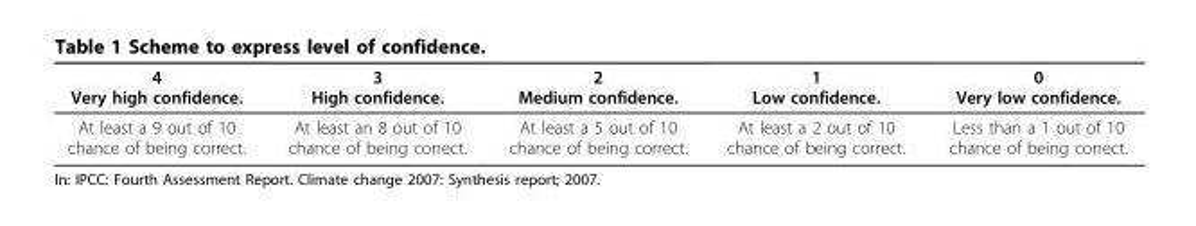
<table><thead><tr><td>4 Very high confidence.</td><td>3 High confidence.</td><td>2 Medium confidence.</td><td>1 Low confidence.</td><td>0 Very low confidence.</td></tr></thead><tbody><tr><td>At least a 9 out of 10 chance of being correct.</td><td>At least an 8 out of 10 chance of being correct.</td><td>At least a 5 out of 10 chance of being correct.</td><td>At least a 2 out of 10 chance of being correct.</td><td>Less than a 1 out of 10 chance of being correct.</td></tr></tbody></table>